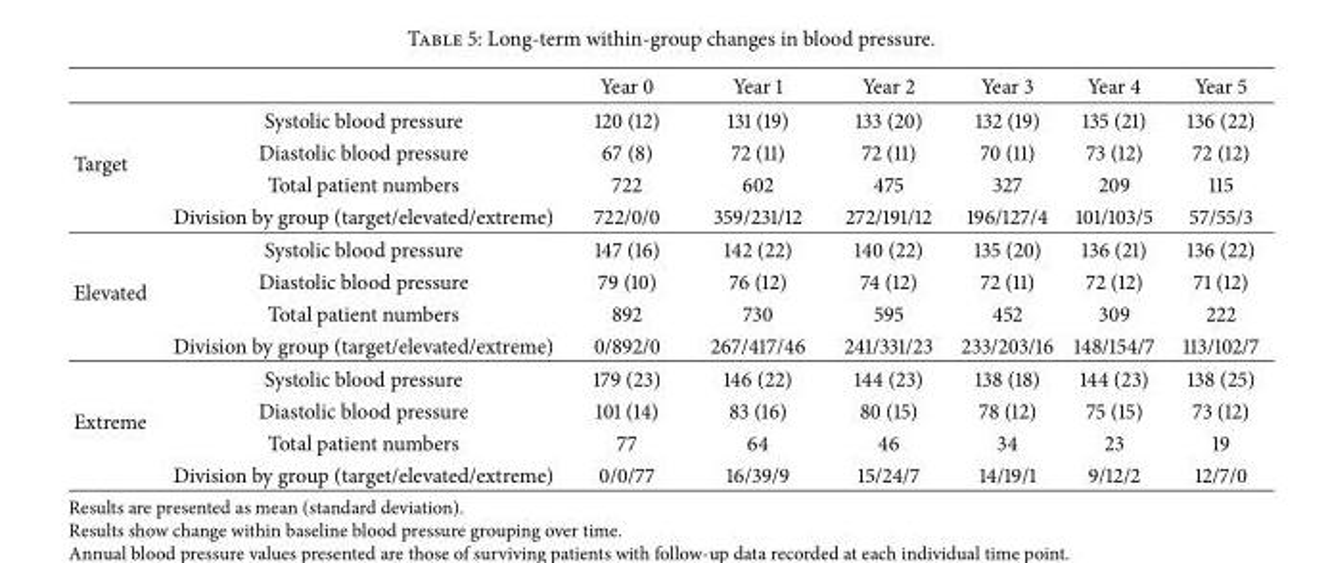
<table><thead><tr><td></td><td></td><td>Year 0</td><td>Year 1</td><td>Year 2</td><td>Year 3</td><td>Year 4</td><td>Year 5</td></tr></thead><tbody><tr><td rowspan="4">Target</td><td>Systolic blood pressure</td><td>120 (12)</td><td>131 (19)</td><td>133 (20)</td><td>132 (19)</td><td>135 (21)</td><td>136 (22)</td></tr><tr><td>Diastolic blood pressure</td><td>67 (8)</td><td>72 (11)</td><td>72 (11)</td><td>70 (11)</td><td>73 (12)</td><td>72 (12)</td></tr><tr><td>Total patient numbers</td><td>722</td><td>602</td><td>475</td><td>327</td><td>209</td><td>115</td></tr><tr><td>Division by group (target/elevated/extreme)</td><td>722/0/0</td><td>359/231/12</td><td>272/191/12</td><td>196/127/4</td><td>101/103/5</td><td>57/55/3</td></tr><tr><td rowspan="4">Elevated</td><td>Systolic blood pressure</td><td>147 (16)</td><td>142 (22)</td><td>140 (22)</td><td>135 (20)</td><td>136 (21)</td><td>136 (22)</td></tr><tr><td>Diastolic blood pressure</td><td>79 (10)</td><td>76 (12)</td><td>74 (12)</td><td>72 (11)</td><td>72 (12)</td><td>71 (12)</td></tr><tr><td>Total patient numbers</td><td>892</td><td>730</td><td>595</td><td>452</td><td>309</td><td>222</td></tr><tr><td>Division by group (target/elevated/extreme)</td><td>0/892/0</td><td>267/417/46</td><td>241/331/23</td><td>233/203/16</td><td>148/154/7</td><td>113/102/7</td></tr><tr><td rowspan="4">Extreme</td><td>Systolic blood pressure</td><td>179 (23)</td><td>146 (22)</td><td>144 (23)</td><td>138 (18)</td><td>144 (23)</td><td>138 (25)</td></tr><tr><td>Diastolic blood pressure</td><td>101 (14)</td><td>83 (16)</td><td>80 (15)</td><td>78 (12)</td><td>75 (15)</td><td>73 (12)</td></tr><tr><td>Total patient numbers</td><td>77</td><td>64</td><td>46</td><td>34</td><td>23</td><td>19</td></tr><tr><td>Division by group (target/elevated/extreme)</td><td>0/0/77</td><td>16/39/9</td><td>15/24/7</td><td>14/19/1</td><td>9/12/2</td><td>12/7/0</td></tr></tbody></table>